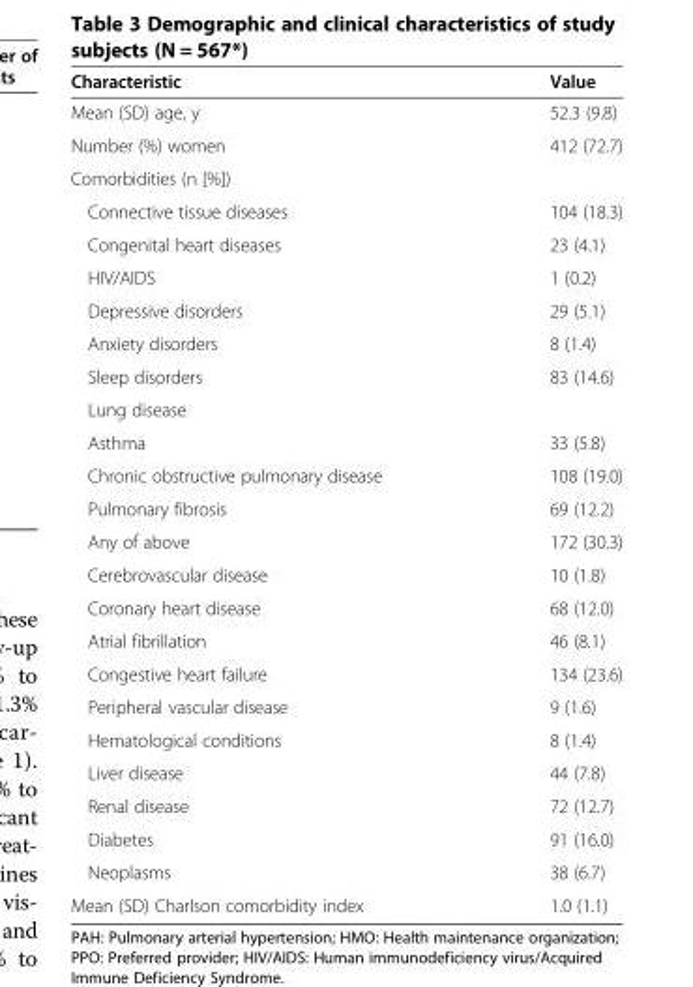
<table><thead><tr><td>Characteristic</td><td>Value</td></tr></thead><tbody><tr><td>Mean (SD) age, y</td><td>52.3 (9.8)</td></tr><tr><td>Number (%) women</td><td>412 (72.7)</td></tr><tr><td colspan="2">Comorbidities (n [%])</td></tr><tr><td>Connective tissue diseases</td><td>104 (18.3)</td></tr><tr><td>Congenital heart diseases</td><td>23 (4.1)</td></tr><tr><td>HIV/AIDS</td><td>1 (0.2)</td></tr><tr><td>Depressive disorders</td><td>29 (5.1)</td></tr><tr><td>Anxiety disorders</td><td>8 (1.4)</td></tr><tr><td>Sleep disorders</td><td>83 (14.6)</td></tr><tr><td colspan="2">Lung disease</td></tr><tr><td>Asthma</td><td>33 (5.8)</td></tr><tr><td>Chronic obstructive pulmonary disease</td><td>108 (19.0)</td></tr><tr><td>Pulmonary fibrosis</td><td>69 (12.2)</td></tr><tr><td>Any of above</td><td>172 (30.3)</td></tr><tr><td>Cerebrovascular disease</td><td>10 (1.8)</td></tr><tr><td>Coronary heart disease</td><td>68 (12.0)</td></tr><tr><td>Atrial fibrillation</td><td>46 (8.1)</td></tr><tr><td>Congestive heart failure</td><td>134 (23.6)</td></tr><tr><td>Peripheral vascular disease</td><td>9 (1.6)</td></tr><tr><td>Hematological conditions</td><td>8 (1.4)</td></tr><tr><td>Liver disease</td><td>44 (7.8)</td></tr><tr><td>Renal disease</td><td>72 (12.7)</td></tr><tr><td>Diabetes</td><td>91 (16.0)</td></tr><tr><td>Neoplasms</td><td>38 (6.7)</td></tr><tr><td>Mean (SD) Charlson comorbidity index</td><td>1.0 (1.1)</td></tr></tbody></table>